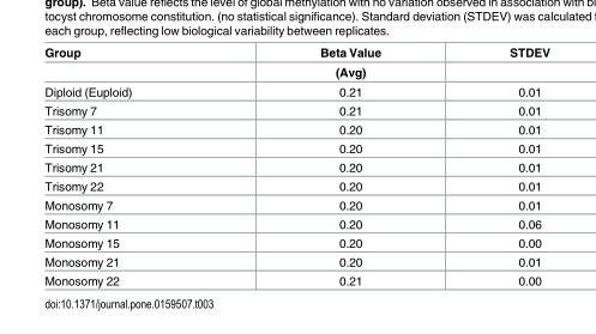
<table><thead><tr><td rowspan="2">Group</td><td rowspan="2">Beta Value (Avg)</td><td rowspan="2">STDEV</td></tr><tr></tr></thead><tbody><tr><td>Diploid (Euploid)</td><td>0.21</td><td>0.01</td></tr><tr><td>Trisomy 7</td><td>0.21</td><td>0.01</td></tr><tr><td>Trisomy 11</td><td>0.20</td><td>0.01</td></tr><tr><td>Trisomy 15</td><td>0.20</td><td>0.01</td></tr><tr><td>Trisomy 21</td><td>0.20</td><td>0.01</td></tr><tr><td>Trisomy 22</td><td>0.20</td><td>0.01</td></tr><tr><td>Monosomy 7</td><td>0.20</td><td>0.01</td></tr><tr><td>Monosomy 11</td><td>0.20</td><td>0.06</td></tr><tr><td>Monosomy 15</td><td>0.20</td><td>0.00</td></tr><tr><td>Monosomy 21</td><td>0.20</td><td>0.01</td></tr><tr><td>Monosomy 22</td><td>0.21</td><td>0.00</td></tr></tbody></table>